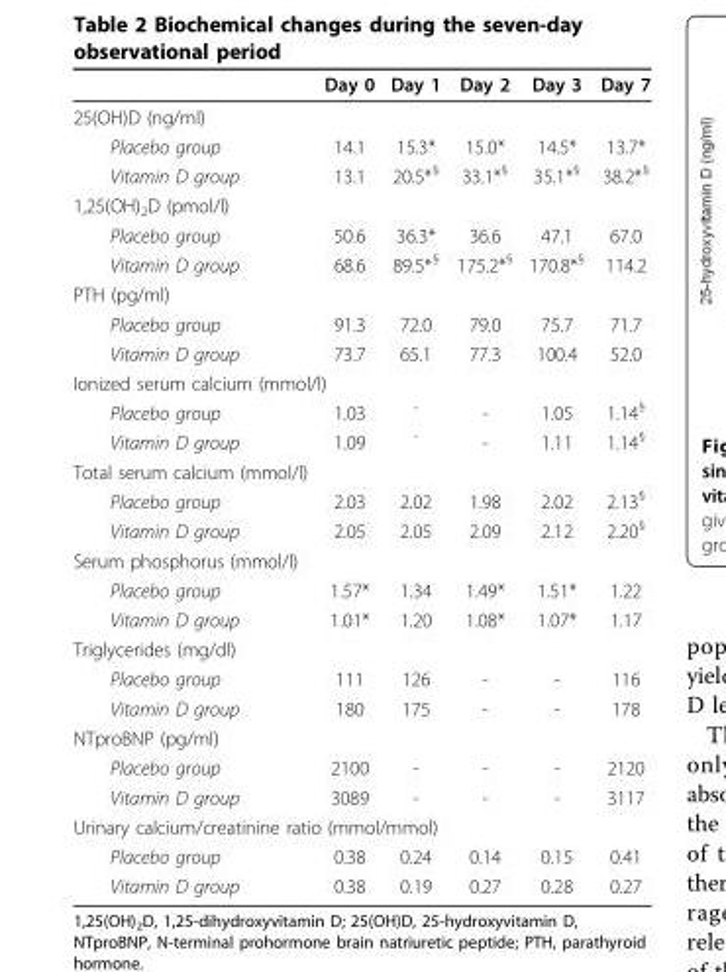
<table><thead><tr><td></td><td>Day 0</td><td>Day 1</td><td>Day 2</td><td>Day 3</td><td>Day 7</td></tr></thead><tbody><tr><td colspan="6">25(OH)D (ng/ml)</td></tr><tr><td>Placebo group</td><td>14.1</td><td>15.3*</td><td>15.0*</td><td>14.5*</td><td>13.7*</td></tr><tr><td>Vitamin D group</td><td>13.1</td><td>20.5*<sup>§</sup></td><td>33.1*<sup>§</sup></td><td>35.1*<sup>§</sup></td><td>38.2*<sup>§</sup></td></tr><tr><td colspan="6">1,25(OH)<sub>2</sub>D (pmol/l)</td></tr><tr><td>Placebo group</td><td>50.6</td><td>36.3*</td><td>36.6</td><td>47.1</td><td>67.0</td></tr><tr><td>Vitamin D group</td><td>68.6</td><td>89.5*<sup>§</sup></td><td>175.2*<sup>§</sup></td><td>170.8*<sup>§</sup></td><td>114.2</td></tr><tr><td colspan="6">PTH (pg/ml)</td></tr><tr><td>Placebo group</td><td>91.3</td><td>72.0</td><td>79.0</td><td>75.7</td><td>71.7</td></tr><tr><td>Vitamin D group</td><td>73.7</td><td>65.1</td><td>77.3</td><td>100.4</td><td>52.0</td></tr><tr><td colspan="6">Ionized serum calcium (mmol/l)</td></tr><tr><td>Placebo group</td><td>1.03</td><td><sup>-</sup></td><td>-</td><td>1.05</td><td>1.14<sup>§</sup></td></tr><tr><td>Vitamin D group</td><td>1.09</td><td><sup>-</sup></td><td>-</td><td>1.11</td><td>1.14<sup>§</sup></td></tr><tr><td colspan="6">Total serum calcium (mmol/l)</td></tr><tr><td>Placebo group</td><td>2.03</td><td>2.02</td><td>1.98</td><td>2.02</td><td>2.13<sup>§</sup></td></tr><tr><td>Vitamin D group</td><td>2.05</td><td>2.05</td><td>2.09</td><td>2.12</td><td>2.20<sup>§</sup></td></tr><tr><td colspan="6">Serum phosphorus (mmol/l)</td></tr><tr><td>Placebo group</td><td>1.57*</td><td>1.34</td><td>1.49*</td><td>1.51*</td><td>1.22</td></tr><tr><td>Vitamin D group</td><td>1.01*</td><td>1.20</td><td>1.08*</td><td>1.07*</td><td>1.17</td></tr><tr><td colspan="6">Triglycerides (mg/dl)</td></tr><tr><td>Placebo group</td><td>111</td><td>126</td><td>-</td><td>-</td><td>116</td></tr><tr><td>Vitamin D group</td><td>180</td><td>175</td><td>-</td><td>-</td><td>178</td></tr><tr><td colspan="6">NTproBNP (pg/ml)</td></tr><tr><td>Placebo group</td><td>2100</td><td>-</td><td>-</td><td>-</td><td>2120</td></tr><tr><td>Vitamin D group</td><td>3089</td><td>-</td><td>-</td><td>-</td><td>3117</td></tr><tr><td colspan="6">Urinary calcium/creatinine ratio (mmol/mmol)</td></tr><tr><td>Placebo group</td><td>0.38</td><td>0.24</td><td>0.14</td><td>0.15</td><td>0.41</td></tr><tr><td>Vitamin D group</td><td>0.38</td><td>0.19</td><td>0.27</td><td>0.28</td><td>0.27</td></tr></tbody></table>